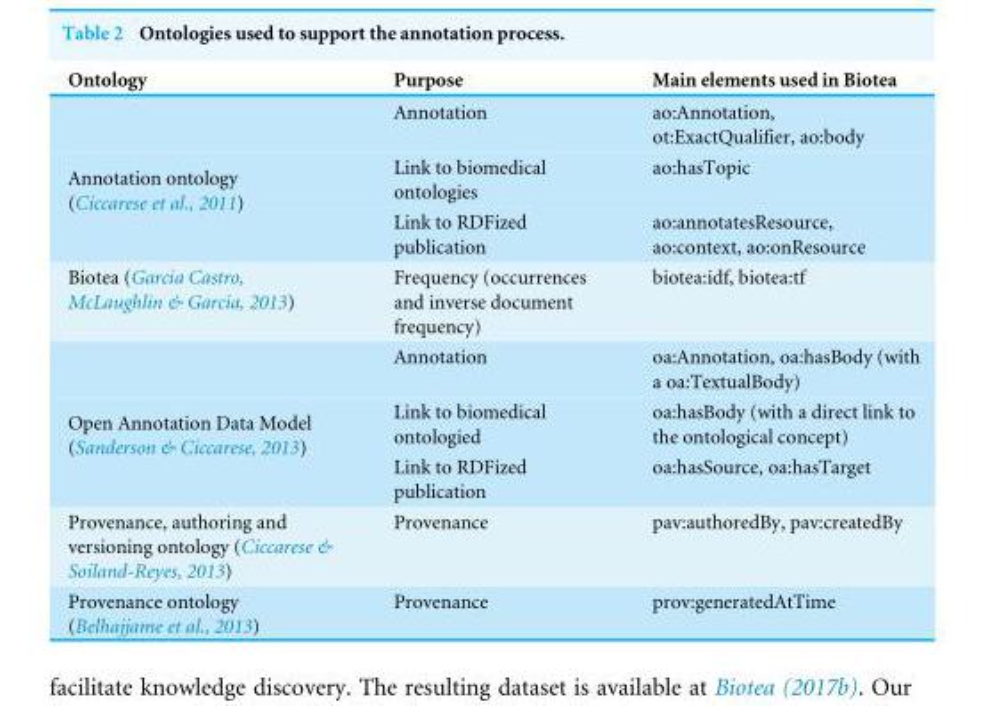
<table><thead><tr><td>Ontology</td><td>Purpose</td><td>Main elements used in Biotea</td></tr></thead><tbody><tr><td rowspan="3">Annotation ontology (Ciccarese et al., 2011)</td><td>Annotation</td><td>ao:Annotation, ot:ExactQualifier, ao:body</td></tr><tr><td>Link to biomedical ontologies</td><td>ao:hasTopic</td></tr><tr><td>Link to RDFized publication</td><td>ao:annotatesResource, ao:context, ao:onResource</td></tr><tr><td>Biotea (Garcia Castro, McLaughlin &amp; Garcia, 2013)</td><td>Frequency (occurrences and inverse document frequency)</td><td>biotea:idf, biotea:tf</td></tr><tr><td rowspan="3">Open Annotation Data Model (Sanderson &amp; Ciccarese, 2013)</td><td>Annotation</td><td>oa:Annotation, oa:hasBody (with a oa:TextualBody)</td></tr><tr><td>Link to biomedical ontologied</td><td>oa:hasBody (with a direct link to the ontological concept)</td></tr><tr><td>Link to RDFized publication</td><td>oa:hasSource, oa:hasTarget</td></tr><tr><td>Provenance, authoring and versioning ontology (Ciccarese &amp; Soiland-Reyes, 2013)</td><td>Provenance</td><td>pav:authoredBy, pav:createdBy</td></tr><tr><td>Provenance ontology (Belhajjame et al., 2013)</td><td>Provenance</td><td>prov:generatedAtTime</td></tr></tbody></table>